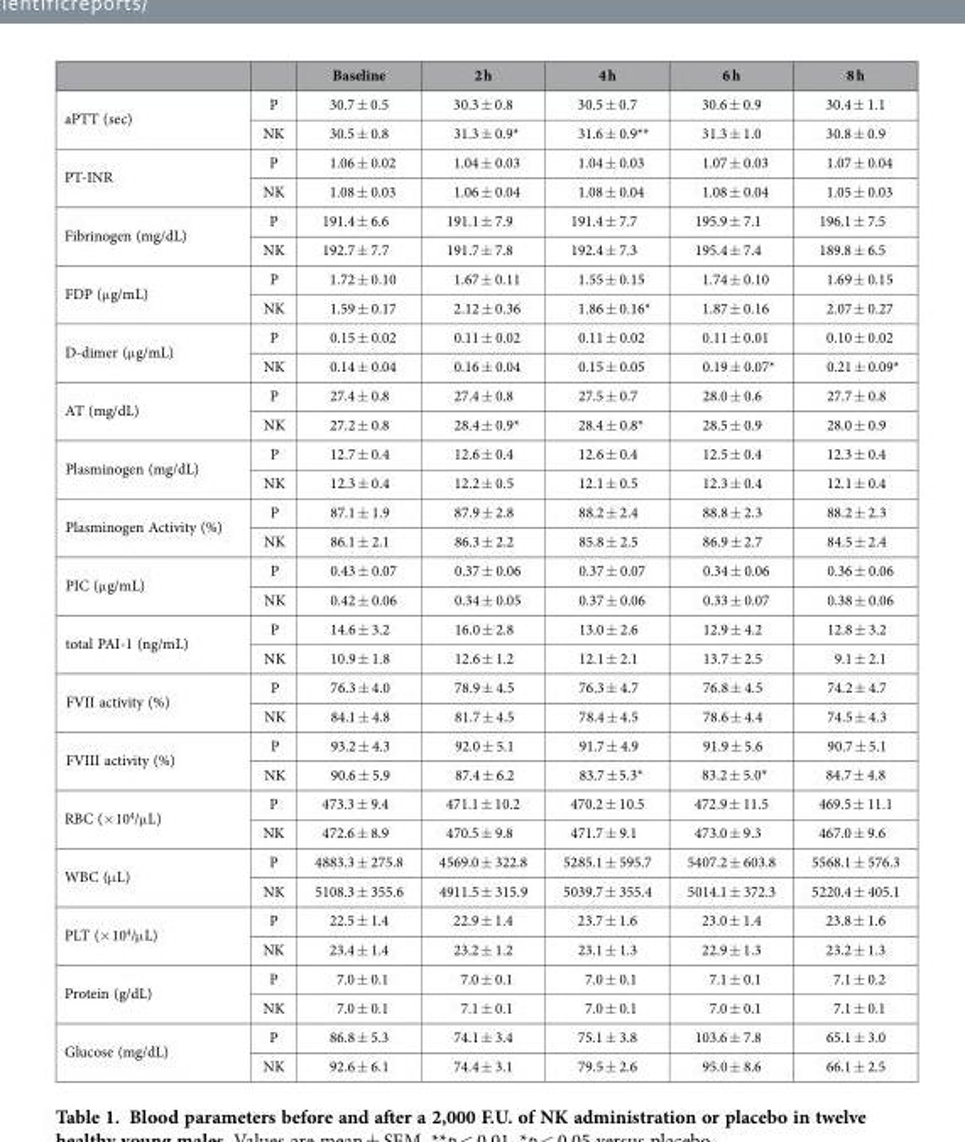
<table><thead><tr><td></td><td></td><td>Baseline</td><td>2 h</td><td>4 h</td><td>6 h</td><td>8 h</td></tr></thead><tbody><tr><td rowspan="2">aPTT (sec)</td><td>P</td><td>30.7 ± 0.5</td><td>30.3 ± 0.8</td><td>30.5 ± 0.7</td><td>30.6 ± 0.9</td><td>30.4 ± 1.1</td></tr><tr><td>NK</td><td>30.5 ± 0.8</td><td>31.3 ± 0.9*</td><td>31.6 ± 0.9**</td><td>31.3 ± 1.0</td><td>30.8 ± 0.9</td></tr><tr><td rowspan="2">PT-INR</td><td>P</td><td>1.06 ± 0.02</td><td>1.04 ± 0.03</td><td>1.04 ± 0.03</td><td>1.07 ± 0.03</td><td>1.07 ± 0.04</td></tr><tr><td>NK</td><td>1.08 ± 0.03</td><td>1.06 ± 0.04</td><td>1.08 ± 0.04</td><td>1.08 ± 0.04</td><td>1.05 ± 0.03</td></tr><tr><td rowspan="2">Fibrinogen (mg/dL)</td><td>P</td><td>191.4 ± 6.6</td><td>191.1 ± 7.9</td><td>191.4 ± 7.7</td><td>195.9 ± 7.1</td><td>196.1 ± 7.5</td></tr><tr><td>NK</td><td>192.7 ± 7.7</td><td>191.7 ± 7.8</td><td>192.4 ± 7.3</td><td>195.4 ± 7.4</td><td>189.8 ± 6.5</td></tr><tr><td rowspan="2">FDP (μ g/mL)</td><td>P</td><td>1.72 ± 0.10</td><td>1.67 ± 0.11</td><td>1.55 ± 0.15</td><td>1.74 ± 0.10</td><td>1.69 ± 0.15</td></tr><tr><td>NK</td><td>1.59 ± 0.17</td><td>2.12 ± 0.36</td><td>1.86 ± 0.16*</td><td>1.87 ± 0.16</td><td>2.07 ± 0.27</td></tr><tr><td rowspan="2">D-dimer (μ g/mL)</td><td>P</td><td>0.15 ± 0.02</td><td>0.11 ± 0.02</td><td>0.11 ± 0.02</td><td>0.11 ± 0.01</td><td>0.10 ± 0.02</td></tr><tr><td>NK</td><td>0.14 ± 0.04</td><td>0.16 ± 0.04</td><td>0.15 ± 0.05</td><td>0.19 ± 0.07*</td><td>0.21 ± 0.09*</td></tr><tr><td rowspan="2">AT (mg/dL)</td><td>P</td><td>27.4 ± 0.8</td><td>27.4 ± 0.8</td><td>27.5 ± 0.7</td><td>28.0 ± 0.6</td><td>27.7 ± 0.8</td></tr><tr><td>NK</td><td>27.2 ± 0.8</td><td>28.4 ± 0.9*</td><td>28.4 ± 0.8*</td><td>28.5 ± 0.9</td><td>28.0 ± 0.9</td></tr><tr><td rowspan="2">Plasminogen (mg/dL)</td><td>P</td><td>12.7 ± 0.4</td><td>12.6 ± 0.4</td><td>12.6 ± 0.4</td><td>12.5 ± 0.4</td><td>12.3 ± 0.4</td></tr><tr><td>NK</td><td>12.3 ± 0.4</td><td>12.2 ± 0.5</td><td>12.1 ± 0.5</td><td>12.3 ± 0.4</td><td>12.1 ± 0.4</td></tr><tr><td rowspan="2">Plasminogen Activity (%)</td><td>P</td><td>87.1 ± 1.9</td><td>87.9 ± 2.8</td><td>88.2 ± 2.4</td><td>88.8 ± 2.3</td><td>88.2 ± 2.3</td></tr><tr><td>NK</td><td>86.1 ± 2.1</td><td>86.3 ± 2.2</td><td>85.8 ± 2.5</td><td>86.9 ± 2.7</td><td>84.5 ± 2.4</td></tr><tr><td rowspan="2">PIC (μ g/mL)</td><td>P</td><td>0.43 ± 0.07</td><td>0.37 ± 0.06</td><td>0.37 ± 0.07</td><td>0.34 ± 0.06</td><td>0.36 ± 0.06</td></tr><tr><td>NK</td><td>0.42 ± 0.06</td><td>0.34 ± 0.05</td><td>0.37 ± 0.06</td><td>0.33 ± 0.07</td><td>0.38 ± 0.06</td></tr><tr><td rowspan="2">total PAI-1 (ng/mL)</td><td>P</td><td>14.6 ± 3.2</td><td>16.0 ± 2.8</td><td>13.0 ± 2.6</td><td>12.9 ± 4.2</td><td>12.8 ± 3.2</td></tr><tr><td>NK</td><td>10.9 ± 1.8</td><td>12.6 ± 1.2</td><td>12.1 ± 2.1</td><td>13.7 ± 2.5</td><td>9.1 ± 2.1</td></tr><tr><td rowspan="2">FVII activity (%)</td><td>P</td><td>76.3 ± 4.0</td><td>78.9 ± 4.5</td><td>76.3 ± 4.7</td><td>76.8 ± 4.5</td><td>74.2 ± 4.7</td></tr><tr><td>NK</td><td>84.1 ± 4.8</td><td>81.7 ± 4.5</td><td>78.4 ± 4.5</td><td>78.6 ± 4.4</td><td>74.5 ± 4.3</td></tr><tr><td rowspan="2">FVIII activity (%)</td><td>P</td><td>93.2 ± 4.3</td><td>92.0 ± 5.1</td><td>91.7 ± 4.9</td><td>91.9 ± 5.6</td><td>90.7 ± 5.1</td></tr><tr><td>NK</td><td>90.6 ± 5.9</td><td>87.4 ± 6.2</td><td>83.7 ± 5.3*</td><td>83.2 ± 5.0*</td><td>84.7 ± 4.8</td></tr><tr><td rowspan="2">RBC (× 10<sup>4</sup>/μ L)</td><td>P</td><td>473.3 ± 9.4</td><td>471.1 ± 10.2</td><td>470.2 ± 10.5</td><td>472.9 ± 11.5</td><td>469.5 ± 11.1</td></tr><tr><td>NK</td><td>472.6 ± 8.9</td><td>470.5 ± 9.8</td><td>471.7 ± 9.1</td><td>473.0 ± 9.3</td><td>467.0 ± 9.6</td></tr><tr><td rowspan="2">WBC (μ L)</td><td>P</td><td>4883.3 ± 275.8</td><td>4569.0 ± 322.8</td><td>5285.1 ± 595.7</td><td>5407.2 ± 603.8</td><td>5568.1 ± 576.3</td></tr><tr><td>NK</td><td>5108.3 ± 355.6</td><td>4911.5 ± 315.9</td><td>5039.7 ± 355.4</td><td>5014.1 ± 372.3</td><td>5220.4 ± 405.1</td></tr><tr><td rowspan="2">PLT (× 10<sup>4</sup>/μ L)</td><td>P</td><td>22.5 ± 1.4</td><td>22.9 ± 1.4</td><td>23.7 ± 1.6</td><td>23.0 ± 1.4</td><td>23.8 ± 1.6</td></tr><tr><td>NK</td><td>23.4 ± 1.4</td><td>23.2 ± 1.2</td><td>23.1 ± 1.3</td><td>22.9 ± 1.3</td><td>23.2 ± 1.3</td></tr><tr><td rowspan="2">Protein (g/dL)</td><td>P</td><td>7.0 ± 0.1</td><td>7.0 ± 0.1</td><td>7.0 ± 0.1</td><td>7.1 ± 0.1</td><td>7.1 ± 0.2</td></tr><tr><td>NK</td><td>7.0 ± 0.1</td><td>7.1 ± 0.1</td><td>7.0 ± 0.1</td><td>7.0 ± 0.1</td><td>7.1 ± 0.1</td></tr><tr><td rowspan="2">Glucose (mg/dL)</td><td>P</td><td>86.8 ± 5.3</td><td>74.1 ± 3.4</td><td>75.1 ± 3.8</td><td>103.6 ± 7.8</td><td>65.1 ± 3.0</td></tr><tr><td>NK</td><td>92.6 ± 6.1</td><td>74.4 ± 3.1</td><td>79.5 ± 2.6</td><td>95.0 ± 8.6</td><td>66.1 ± 2.5</td></tr></tbody></table>